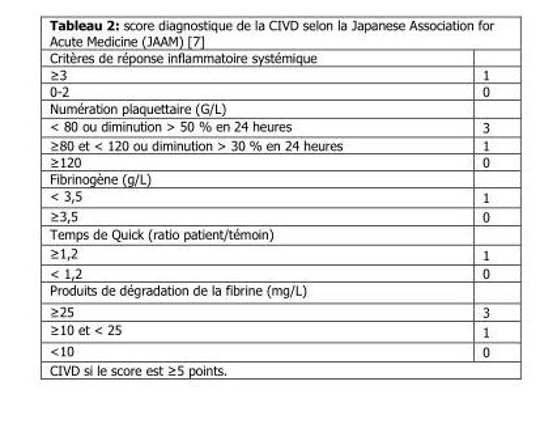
<table><tbody><tr><td colspan="2">Critères de réponse inflammatoire systémique</td></tr><tr><td>≥3</td><td>1</td></tr><tr><td>0-2</td><td>0</td></tr><tr><td colspan="2">Numération plaquettaire (G/L)</td></tr><tr><td>&lt; 80 ou diminution &gt; 50 % en 24 heures</td><td>3</td></tr><tr><td>≥80 et &lt; 120 ou diminution &gt; 30 % en 24 heures</td><td>1</td></tr><tr><td>≥120</td><td>0</td></tr><tr><td colspan="2">Fibrinogène (g/L)</td></tr><tr><td>&lt; 3,5</td><td>1</td></tr><tr><td>≥3,5</td><td>0</td></tr><tr><td colspan="2">Temps de Quick (ratio patient/témoin)</td></tr><tr><td>≥1,2</td><td>1</td></tr><tr><td>&lt; 1,2</td><td>0</td></tr><tr><td colspan="2">Produits de dégradation de la fibrine (mg/L)</td></tr><tr><td>≥25</td><td>3</td></tr><tr><td>≥10 et &lt; 25</td><td>1</td></tr><tr><td>&lt;10</td><td>0</td></tr><tr><td colspan="2">CIVD si le score est ≥5 points.</td></tr></tbody></table>